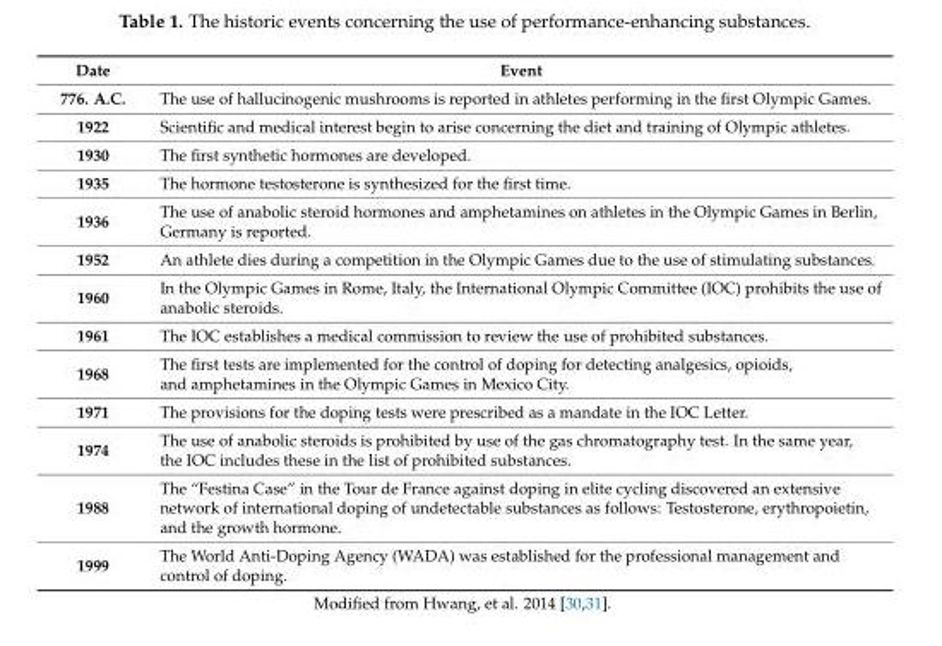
<table><thead><tr><td>Date</td><td>Event</td></tr></thead><tbody><tr><td>776. A.C.</td><td>The use of hallucinogenic mushrooms is reported in athletes performing in the first Olympic Games.</td></tr><tr><td>1922</td><td>Scientific and medical interest begin to arise concerning the diet and training of Olympic athletes.</td></tr><tr><td>1930</td><td>The first synthetic hormones are developed.</td></tr><tr><td>1935</td><td>The hormone testosterone is synthesized for the first time.</td></tr><tr><td>1936</td><td>The use of anabolic steroid hormones and amphetamines on athletes in the Olympic Games in Berlin, Germany is reported.</td></tr><tr><td>1952</td><td>An athlete dies during a competition in the Olympic Games due to the use of stimulating substances.</td></tr><tr><td>1960</td><td>In the Olympic Games in Rome, Italy, the International Olympic Committee (IOC) prohibits the use of anabolic steroids.</td></tr><tr><td>1961</td><td>The IOC establishes a medical commission to review the use of prohibited substances.</td></tr><tr><td>1968</td><td>The first tests are implemented for the control of doping for detecting analgesics, opioids, and amphetamines in the Olympic Games in Mexico City.</td></tr><tr><td>1971</td><td>The provisions for the doping tests were prescribed as a mandate in the IOC Letter.</td></tr><tr><td>1974</td><td>The use of anabolic steroids is prohibited by use of the gas chromatography test. In the same year, the IOC includes these in the list of prohibited substances.</td></tr><tr><td>1988</td><td>The “Festina Case” in the Tour de France against doping in elite cycling discovered an extensive network of international doping of undetectable substances as follows: Testosterone, erythropoietin, and the growth hormone.</td></tr><tr><td>1999</td><td>The World Anti-Doping Agency (WADA) was established for the professional management and control of doping.</td></tr></tbody></table>